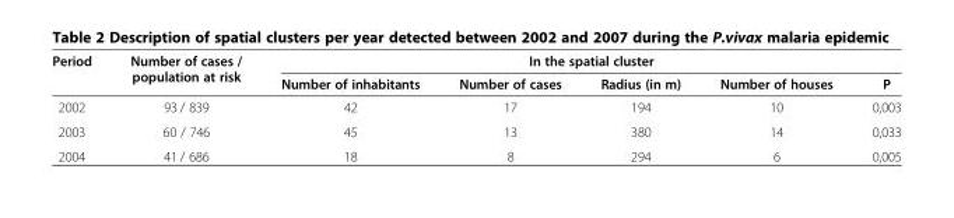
<table><thead><tr><td rowspan="2">Period</td><td rowspan="2">Number of cases / population at risk</td><td colspan="5">In the spatial cluster</td></tr><tr><td>Number of inhabitants</td><td>Number of cases</td><td>Radius (in m)</td><td>Number of houses</td><td>P</td></tr></thead><tbody><tr><td>2002</td><td>93 / 839</td><td>42</td><td>17</td><td>194</td><td>10</td><td>0,003</td></tr><tr><td>2003</td><td>60 / 746</td><td>45</td><td>13</td><td>380</td><td>14</td><td>0,033</td></tr><tr><td>2004</td><td>41 / 686</td><td>18</td><td>8</td><td>294</td><td>6</td><td>0,005</td></tr></tbody></table>